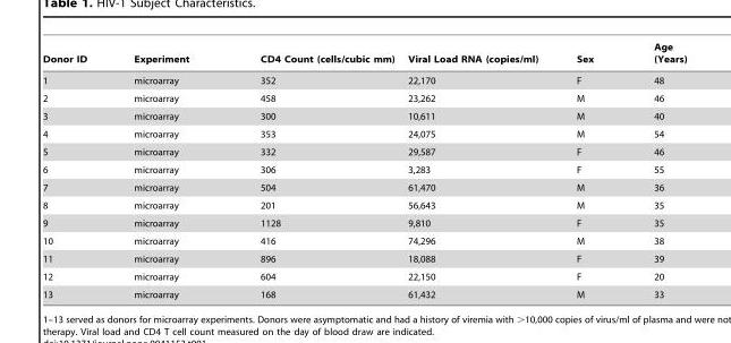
<table><thead><tr><td>Donor ID</td><td>Experiment</td><td>CD4 Count (cells/cubic mm)</td><td>Viral Load RNA (copies/ml)</td><td>Sex</td><td>Age (Years)</td></tr></thead><tbody><tr><td>1</td><td>microarray</td><td>352</td><td>22,170</td><td>F</td><td>48</td></tr><tr><td>2</td><td>microarray</td><td>458</td><td>23,262</td><td>M</td><td>46</td></tr><tr><td>3</td><td>microarray</td><td>300</td><td>10,611</td><td>M</td><td>40</td></tr><tr><td>4</td><td>microarray</td><td>353</td><td>24,075</td><td>M</td><td>54</td></tr><tr><td>5</td><td>microarray</td><td>332</td><td>29,587</td><td>F</td><td>46</td></tr><tr><td>6</td><td>microarray</td><td>306</td><td>3,283</td><td>F</td><td>55</td></tr><tr><td>7</td><td>microarray</td><td>504</td><td>61,470</td><td>M</td><td>36</td></tr><tr><td>8</td><td>microarray</td><td>201</td><td>56,643</td><td>M</td><td>35</td></tr><tr><td>9</td><td>microarray</td><td>1128</td><td>9,810</td><td>F</td><td>35</td></tr><tr><td>10</td><td>microarray</td><td>416</td><td>74,296</td><td>M</td><td>38</td></tr><tr><td>11</td><td>microarray</td><td>896</td><td>18,088</td><td>F</td><td>39</td></tr><tr><td>12</td><td>microarray</td><td>604</td><td>22,150</td><td>F</td><td>20</td></tr><tr><td>13</td><td>microarray</td><td>168</td><td>61,432</td><td>M</td><td>33</td></tr></tbody></table>